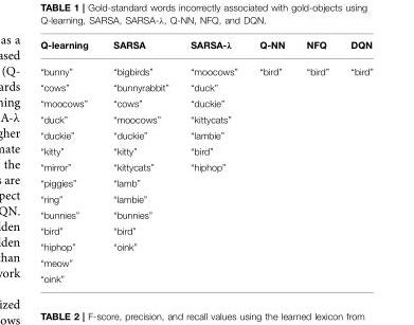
<table><thead><tr><td>Q-learning</td><td>SARSA</td><td>SARSA-λ</td><td>Q-NN</td><td>NFQ</td><td>DQN</td></tr></thead><tbody><tr><td>“bunny”</td><td>“bigbirds”</td><td>“moocows”</td><td>“bird”</td><td>“bird”</td><td>“bird”</td></tr><tr><td>“cows”</td><td>“bunnyrabbit”</td><td>“duck”</td><td></td><td></td><td></td></tr><tr><td>“moocows”</td><td>“cows”</td><td>“duckie”</td><td></td><td></td><td></td></tr><tr><td>“duck”</td><td>“moocows”</td><td>“kittycats”</td><td></td><td></td><td></td></tr><tr><td>“duckie”</td><td>“duckie”</td><td>“lambie”</td><td></td><td></td><td></td></tr><tr><td>“kitty”</td><td>“kitty”</td><td>“bird”</td><td></td><td></td><td></td></tr><tr><td>“mirror”</td><td>“kittycats”</td><td>“hiphop”</td><td></td><td></td><td></td></tr><tr><td>“piggies”</td><td>“lamb”</td><td></td><td></td><td></td><td></td></tr><tr><td>“ring”</td><td>“lambie”</td><td></td><td></td><td></td><td></td></tr><tr><td>“bunnies”</td><td>“bunnies”</td><td></td><td></td><td></td><td></td></tr><tr><td>“bird”</td><td>“bird”</td><td></td><td></td><td></td><td></td></tr><tr><td>“hiphop”</td><td>“oink”</td><td></td><td></td><td></td><td></td></tr><tr><td colspan="6">“meow”</td></tr><tr><td>“oink”</td><td></td><td></td><td></td><td></td><td></td></tr></tbody></table>